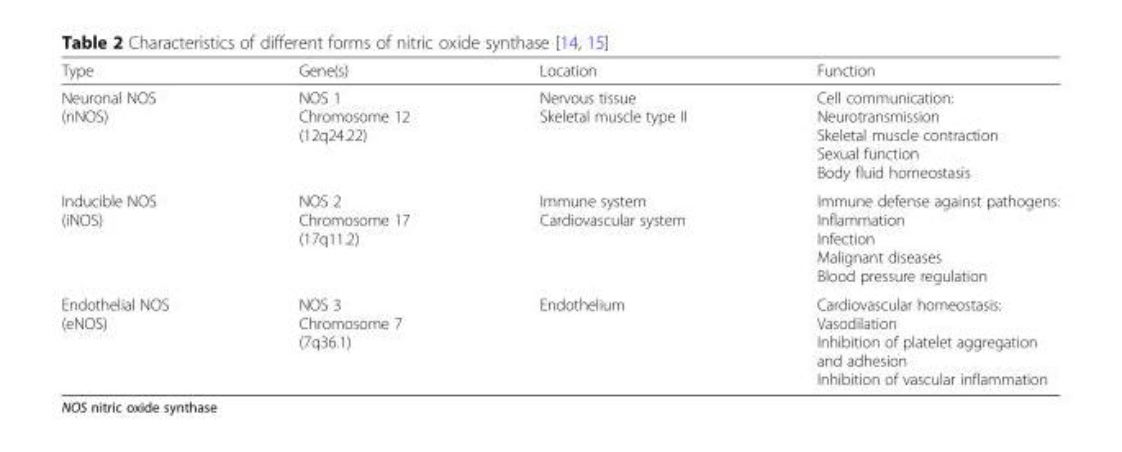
<table><thead><tr><td>Type</td><td>Gene(s)</td><td>Location</td><td>Function</td></tr></thead><tbody><tr><td>Neuronal NOS (nNOS)</td><td>NOS 1 Chromosome 12 (12q24.22)</td><td>Nervous tissue Skeletal muscle type II</td><td>Cell communication: Neurotransmission Skeletal muscle contraction Sexual function Body fluid homeostasis</td></tr><tr><td>Inducible NOS (iNOS)</td><td>NOS 2 Chromosome 17 (17q11.2)</td><td>Immune system Cardiovascular system</td><td>Immune defense against pathogens: Inflammation Infection Malignant diseases Blood pressure regulation</td></tr><tr><td>Endothelial NOS (eNOS)</td><td>NOS 3 Chromosome 7 (7q36.1)</td><td>Endothelium</td><td>Cardiovascular homeostasis: Vasodilation Inhibition of platelet aggregation and adhesion Inhibition of vascular inflammation</td></tr></tbody></table>